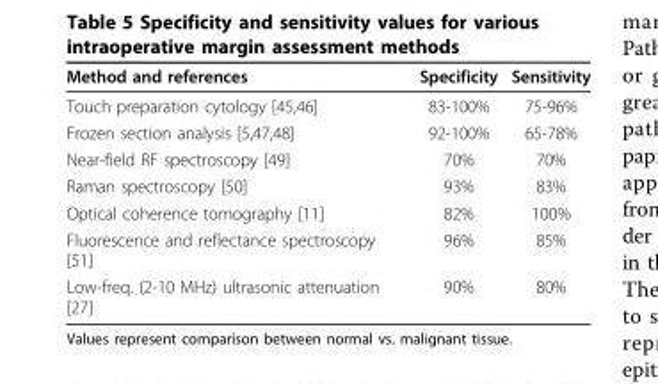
<table><thead><tr><td>Method and references</td><td>Specificity</td><td>Sensitivity</td></tr></thead><tbody><tr><td>Touch preparation cytology [45,46]</td><td>83-100%</td><td>75-96%</td></tr><tr><td>Frozen section analysis [5,47,48]</td><td>92-100%</td><td>65-78%</td></tr><tr><td>Near-field RF spectroscopy [49]</td><td>70%</td><td>70%</td></tr><tr><td>Raman spectroscopy [50]</td><td>93%</td><td>83%</td></tr><tr><td>Optical coherence tomography [11]</td><td>82%</td><td>100%</td></tr><tr><td>Fluorescence and reflectance spectroscopy [51]</td><td>96%</td><td>85%</td></tr><tr><td>Low-freq. (2-10 MHz) ultrasonic attenuation [27]</td><td>90%</td><td>80%</td></tr></tbody></table>